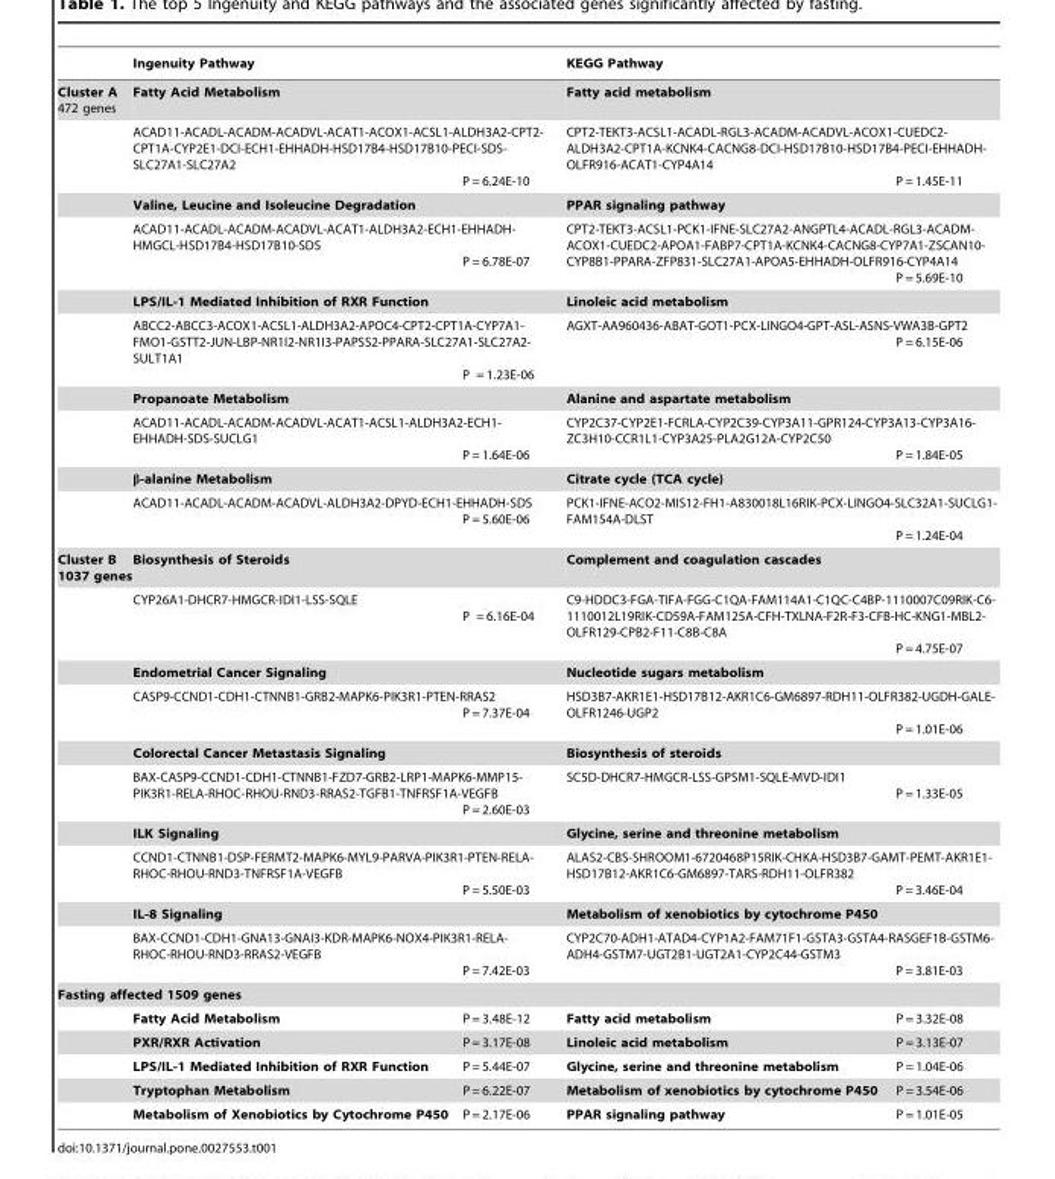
<table><thead><tr><td></td><td colspan="2">Ingenuity Pathway</td><td colspan="2">KEGG Pathway</td></tr></thead><tbody><tr><td rowspan="10">Cluster A 472 genes</td><td colspan="2">Fatty Acid Metabolism</td><td colspan="2">Fatty acid metabolism</td></tr><tr><td colspan="2">ACAD11-ACADL-ACADM-ACADVL-ACAT1-ACOX1-ACSL1-ALDH3A2-CPT2- CPT1A-CYP2E1-DCI-ECH1-EHHADH-HSD17B4-HSD17B10-PECI-SDS- SLC27A1-SLC27A2 P = 6.24E-10</td><td colspan="2">CPT2-TEKT3-ACSL1-ACADL-RGL3-ACADM-ACADVL-ACOX1-CUEDC2- ALDH3A2-CPT1A-KCNK4-CACNG8-DCI-HSD17B10-HSD17B4-PECI-EHHADH- OLFR916-ACAT1-CYP4A14 P = 1.45E-11</td></tr><tr><td colspan="2">Valine, Leucine and Isoleucine Degradation</td><td colspan="2">PPAR signaling pathway</td></tr><tr><td colspan="2">ACAD11-ACADL-ACADM-ACADVL-ACAT1-ALDH3A2-ECH1-EHHADH- HMGCL-HSD17B4-HSD17B10-SDS P = 6.78E-07</td><td colspan="2">CPT2-TEKT3-ACSL1-PCK1-IFNE-SLC27A2-ANGPTL4-ACADL-RGL3-ACADM- ACOX1-CUEDC2-APOA1-FABP7-CPT1A-KCNK4-CACNG8-CYP7A1-ZSCAN10- CYP8B1-PPARA-ZFP831-SLC27A1-APOA5-EHHADH-OLFR916-CYP4A14 P = 5.69E-10</td></tr><tr><td colspan="2">LPS/IL-1 Mediated Inhibition of RXR Function</td><td colspan="2">Linoleic acid metabolism</td></tr><tr><td colspan="2">ABCC2-ABCC3-ACOX1-ACSL1-ALDH3A2-APOC4-CPT2-CPT1A-CYP7A1- FMO1-GSTT2-JUN-LBP-NR1I2-NR1I3-PAPSS2-PPARA-SLC27A1-SLC27A2- SULT1A1 P = 1.23E-06</td><td colspan="2">AGXT-AA960436-ABAT-GOT1-PCX-LINGO4-GPT-ASL-ASNS-VWA3B-GPT2 P = 6.15E-06</td></tr><tr><td colspan="2">Propanoate Metabolism</td><td colspan="2">Alanine and aspartate metabolism</td></tr><tr><td colspan="2">ACAD11-ACADL-ACADM-ACADVL-ACAT1-ACSL1-ALDH3A2-ECH1- EHHADH-SDS-SUCLG1 P = 1.64E-06</td><td colspan="2">CYP2C37-CYP2E1-FCRLA-CYP2C39-CYP3A11-GPR124-CYP3A13-CYP3A16- ZC3H10-CCR1L1-CYP3A25-PLA2G12A-CYP2C50 P = 1.84E-05</td></tr><tr><td colspan="2">β-alanine Metabolism</td><td colspan="2">Citrate cycle (TCA cycle)</td></tr><tr><td colspan="2">ACAD11-ACADL-ACADM-ACADVL-ALDH3A2-DPYD-ECH1-EHHADH-SDS P = 5.60E-06</td><td colspan="2">PCK1-IFNE-ACO2-MIS12-FH1-A830018L16RIK-PCX-LINGO4-SLC32A1-SUCLG1- FAM154A-DLST P = 1.24E-04</td></tr><tr><td rowspan="10">Cluster B 1037 genes</td><td colspan="2">Biosynthesis of Steroids</td><td colspan="2">Complement and coagulation cascades</td></tr><tr><td colspan="2">CYP26A1-DHCR7-HMGCR-IDI1-LSS-SQLE P = 6.16E-04</td><td colspan="2">C9-HDDC3-FGA-TIFA-FGG-C1QA-FAM114A1-C1QC-C4BP-1110007C09RIK-C6- 1110012L19RIK-CD59A-FAM125A-CFH-TXLNA-F2R-F3-CFB-HC-KNG1-MBL2- OLFR129-CPB2-F11-C8B-C8A P = 4.75E-07</td></tr><tr><td colspan="2">Endometrial Cancer Signaling</td><td colspan="2">Nucleotide sugars metabolism</td></tr><tr><td colspan="2">CASP9-CCND1-CDH1-CTNNB1-GRB2-MAPK6-PIK3R1-PTEN-RRAS2 P = 7.37E-04</td><td colspan="2">HSD3B7-AKR1E1-HSD17B12-AKR1C6-GM6897-RDH11-OLFR382-UGDH-GALE- OLFR1246-UGP2 P = 1.01E-06</td></tr><tr><td colspan="2">Colorectal Cancer Metastasis Signaling</td><td colspan="2">Biosynthesis of steroids</td></tr><tr><td colspan="2">BAX-CASP9-CCND1-CDH1-CTNNB1-FZD7-GRB2-LRP1-MAPK6-MMP15- PIK3R1-RELA-RHOC-RHOU-RND3-RRAS2-TGFB1-TNFRSF1A-VEGFB P = 2.60E-03</td><td colspan="2">SC5D-DHCR7-HMGCR-LSS-GPSM1-SQLE-MVD-IDI1 P = 1.33E-05</td></tr><tr><td colspan="2">ILK Signaling</td><td colspan="2">Glycine, serine and threonine metabolism</td></tr><tr><td colspan="2">CCND1-CTNNB1-DSP-FERMT2-MAPK6-MYL9-PARVA-PIK3R1-PTEN-RELA- RHOC-RHOU-RND3-TNFRSF1A-VEGFB P = 5.50E-03</td><td colspan="2">ALAS2-CBS-SHROOM1-6720468P15RIK-CHKA-HSD3B7-GAMT-PEMT-AKR1E1- HSD17B12-AKR1C6-GM6897-TARS-RDH11-OLFR382 P = 3.46E-04</td></tr><tr><td colspan="2">IL-8 Signaling</td><td colspan="2">Metabolism of xenobiotics by cytochrome P450</td></tr><tr><td colspan="2">BAX-CCND1-CDH1-GNA13-GNAI3-KDR-MAPK6-NOX4-PIK3R1-RELA- RHOC-RHOU-RND3-RRAS2-VEGFB P = 7.42E-03</td><td colspan="2">CYP2C70-ADH1-ATAD4-CYP1A2-FAM71F1-GSTA3-GSTA4-RASGEF1B-GSTM6- ADH4-GSTM7-UGT2B1-UGT2A1-CYP2C44-GSTM3 P = 3.81E-03</td></tr><tr><td colspan="5">Fasting affected 1509 genes</td></tr><tr><td></td><td>Fatty Acid Metabolism</td><td>P = 3.48E-12</td><td>Fatty acid metabolism</td><td>P = 3.32E-08</td></tr><tr><td></td><td>PXR/RXR Activation</td><td>P = 3.17E-08</td><td>Linoleic acid metabolism</td><td>P = 3.13E-07</td></tr><tr><td></td><td>LPS/IL-1 Mediated Inhibition of RXR Function</td><td>P = 5.44E-07</td><td>Glycine, serine and threonine metabolism</td><td>P = 1.04E-06</td></tr><tr><td></td><td>Tryptophan Metabolism</td><td>P = 6.22E-07</td><td>Metabolism of xenobiotics by cytochrome P450</td><td>P = 3.54E-06</td></tr><tr><td></td><td>Metabolism of Xenobiotics by Cytochrome P450</td><td>P = 2.17E-06</td><td>PPAR signaling pathway</td><td>P = 1.01E-05</td></tr></tbody></table>